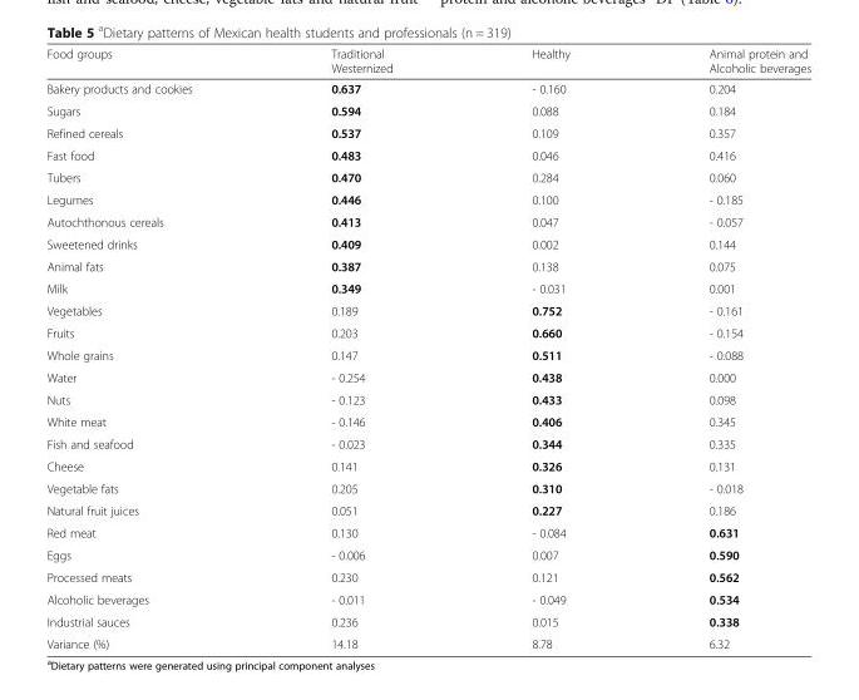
<table><thead><tr><td>Food groups</td><td>Traditional Westernized</td><td>Healthy</td><td>Animal protein and Alcoholic beverages</td></tr></thead><tbody><tr><td>Bakery products and cookies</td><td>0.637</td><td>- 0.160</td><td>0.204</td></tr><tr><td>Sugars</td><td>0.594</td><td>0.088</td><td>0.184</td></tr><tr><td>Refined cereals</td><td>0.537</td><td>0.109</td><td>0.357</td></tr><tr><td>Fast food</td><td>0.483</td><td>0.046</td><td>0.416</td></tr><tr><td>Tubers</td><td>0.470</td><td>0.284</td><td>0.060</td></tr><tr><td>Legumes</td><td>0.446</td><td>0.100</td><td>- 0.185</td></tr><tr><td>Autochthonous cereals</td><td>0.413</td><td>0.047</td><td>- 0.057</td></tr><tr><td>Sweetened drinks</td><td>0.409</td><td>0.002</td><td>0.144</td></tr><tr><td>Animal fats</td><td>0.387</td><td>0.138</td><td>0.075</td></tr><tr><td>Milk</td><td>0.349</td><td>- 0.031</td><td>0.001</td></tr><tr><td>Vegetables</td><td>0.189</td><td>0.752</td><td>- 0.161</td></tr><tr><td>Fruits</td><td>0.203</td><td>0.660</td><td>- 0.154</td></tr><tr><td>Whole grains</td><td>0.147</td><td>0.511</td><td>- 0.088</td></tr><tr><td>Water</td><td>- 0.254</td><td>0.438</td><td>0.000</td></tr><tr><td>Nuts</td><td>- 0.123</td><td>0.433</td><td>0.098</td></tr><tr><td>White meat</td><td>- 0.146</td><td>0.406</td><td>0.345</td></tr><tr><td>Fish and seafood</td><td>- 0.023</td><td>0.344</td><td>0.335</td></tr><tr><td>Cheese</td><td>0.141</td><td>0.326</td><td>0.131</td></tr><tr><td>Vegetable fats</td><td>0.205</td><td>0.310</td><td>- 0.018</td></tr><tr><td>Natural fruit juices</td><td>0.051</td><td>0.227</td><td>0.186</td></tr><tr><td>Red meat</td><td>0.130</td><td>- 0.084</td><td>0.631</td></tr><tr><td>Eggs</td><td>- 0.006</td><td>0.007</td><td>0.590</td></tr><tr><td>Processed meats</td><td>0.230</td><td>0.121</td><td>0.562</td></tr><tr><td>Alcoholic beverages</td><td>- 0.011</td><td>- 0.049</td><td>0.534</td></tr><tr><td>Industrial sauces</td><td>0.236</td><td>0.015</td><td>0.338</td></tr><tr><td>Variance (%)</td><td>14.18</td><td>8.78</td><td>6.32</td></tr></tbody></table>